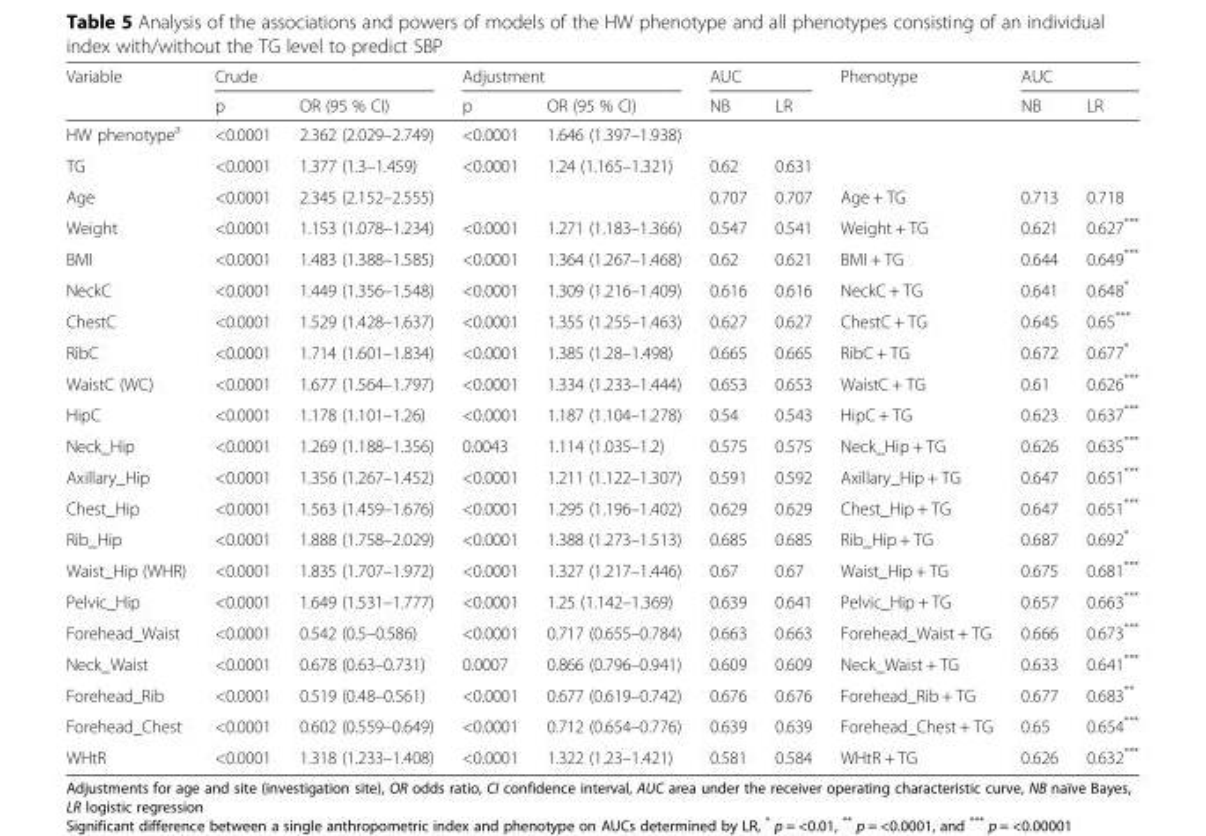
<table><thead><tr><td rowspan="2">Variable</td><td colspan="2">Crude</td><td colspan="2">Adjustment</td><td colspan="2">AUC</td><td rowspan="2">Phenotype</td><td colspan="2">AUC</td></tr><tr><td>p</td><td>OR (95 % CI)</td><td>p</td><td>OR (95 % CI)</td><td>NB</td><td>LR</td><td>NB</td><td>LR</td></tr></thead><tbody><tr><td>HW phenotype<sup>a</sup></td><td>&lt;0.0001</td><td>2.362 (2.029–2.749)</td><td>&lt;0.0001</td><td>1.646 (1.397–1.938)</td><td></td><td></td><td></td><td></td><td></td></tr><tr><td>TG</td><td>&lt;0.0001</td><td>1.377 (1.3–1.459)</td><td>&lt;0.0001</td><td>1.24 (1.165–1.321)</td><td>0.62</td><td>0.631</td><td></td><td></td><td></td></tr><tr><td>Age</td><td>&lt;0.0001</td><td>2.345 (2.152–2.555)</td><td></td><td></td><td>0.707</td><td>0.707</td><td>Age + TG</td><td>0.713</td><td>0.718</td></tr><tr><td>Weight</td><td>&lt;0.0001</td><td>1.153 (1.078–1.234)</td><td>&lt;0.0001</td><td>1.271 (1.183–1.366)</td><td>0.547</td><td>0.541</td><td>Weight + TG</td><td>0.621</td><td>0.627***</td></tr><tr><td>BMI</td><td>&lt;0.0001</td><td>1.483 (1.388–1.585)</td><td>&lt;0.0001</td><td>1.364 (1.267–1.468)</td><td>0.62</td><td>0.621</td><td>BMI + TG</td><td>0.644</td><td>0.649***</td></tr><tr><td>NeckC</td><td>&lt;0.0001</td><td>1.449 (1.356–1.548)</td><td>&lt;0.0001</td><td>1.309 (1.216–1.409)</td><td>0.616</td><td>0.616</td><td>NeckC + TG</td><td>0.641</td><td>0.648*</td></tr><tr><td>ChestC</td><td>&lt;0.0001</td><td>1.529 (1.428–1.637)</td><td>&lt;0.0001</td><td>1.355 (1.255–1.463)</td><td>0.627</td><td>0.627</td><td>ChestC + TG</td><td>0.645</td><td>0.65***</td></tr><tr><td>RibC</td><td>&lt;0.0001</td><td>1.714 (1.601–1.834)</td><td>&lt;0.0001</td><td>1.385 (1.28–1.498)</td><td>0.665</td><td>0.665</td><td>RibC + TG</td><td>0.672</td><td>0.677*</td></tr><tr><td>WaistC (WC)</td><td>&lt;0.0001</td><td>1.677 (1.564–1.797)</td><td>&lt;0.0001</td><td>1.334 (1.233–1.444)</td><td>0.653</td><td>0.653</td><td>WaistC + TG</td><td>0.61</td><td>0.626***</td></tr><tr><td>HipC</td><td>&lt;0.0001</td><td>1.178 (1.101–1.26)</td><td>&lt;0.0001</td><td>1.187 (1.104–1.278)</td><td>0.54</td><td>0.543</td><td>HipC + TG</td><td>0.623</td><td>0.637***</td></tr><tr><td>Neck_Hip</td><td>&lt;0.0001</td><td>1.269 (1.188–1.356)</td><td>0.0043</td><td>1.114 (1.035–1.2)</td><td>0.575</td><td>0.575</td><td>Neck_Hip + TG</td><td>0.626</td><td>0.635***</td></tr><tr><td>Axillary_Hip</td><td>&lt;0.0001</td><td>1.356 (1.267–1.452)</td><td>&lt;0.0001</td><td>1.211 (1.122–1.307)</td><td>0.591</td><td>0.592</td><td>Axillary_Hip + TG</td><td>0.647</td><td>0.651***</td></tr><tr><td>Chest_Hip</td><td>&lt;0.0001</td><td>1.563 (1.459–1.676)</td><td>&lt;0.0001</td><td>1.295 (1.196–1.402)</td><td>0.629</td><td>0.629</td><td>Chest_Hip + TG</td><td>0.647</td><td>0.651***</td></tr><tr><td>Rib_Hip</td><td>&lt;0.0001</td><td>1.888 (1.758–2.029)</td><td>&lt;0.0001</td><td>1.388 (1.273–1.513)</td><td>0.685</td><td>0.685</td><td>Rib_Hip + TG</td><td>0.687</td><td>0.692*</td></tr><tr><td>Waist_Hip (WHR)</td><td>&lt;0.0001</td><td>1.835 (1.707–1.972)</td><td>&lt;0.0001</td><td>1.327 (1.217–1.446)</td><td>0.67</td><td>0.67</td><td>Waist_Hip + TG</td><td>0.675</td><td>0.681***</td></tr><tr><td>Pelvic_Hip</td><td>&lt;0.0001</td><td>1.649 (1.531–1.777)</td><td>&lt;0.0001</td><td>1.25 (1.142–1.369)</td><td>0.639</td><td>0.641</td><td>Pelvic_Hip + TG</td><td>0.657</td><td>0.663***</td></tr><tr><td>Forehead_Waist</td><td>&lt;0.0001</td><td>0.542 (0.5–0.586)</td><td>&lt;0.0001</td><td>0.717 (0.655–0.784)</td><td>0.663</td><td>0.663</td><td>Forehead_Waist + TG</td><td>0.666</td><td>0.673***</td></tr><tr><td>Neck_Waist</td><td>&lt;0.0001</td><td>0.678 (0.63–0.731)</td><td>0.0007</td><td>0.866 (0.796–0.941)</td><td>0.609</td><td>0.609</td><td>Neck_Waist + TG</td><td>0.633</td><td>0.641***</td></tr><tr><td>Forehead_Rib</td><td>&lt;0.0001</td><td>0.519 (0.48–0.561)</td><td>&lt;0.0001</td><td>0.677 (0.619–0.742)</td><td>0.676</td><td>0.676</td><td>Forehead_Rib + TG</td><td>0.677</td><td>0.683**</td></tr><tr><td>Forehead_Chest</td><td>&lt;0.0001</td><td>0.602 (0.559–0.649)</td><td>&lt;0.0001</td><td>0.712 (0.654–0.776)</td><td>0.639</td><td>0.639</td><td>Forehead_Chest + TG</td><td>0.65</td><td>0.654***</td></tr><tr><td>WHtR</td><td>&lt;0.0001</td><td>1.318 (1.233–1.408)</td><td>&lt;0.0001</td><td>1.322 (1.23–1.421)</td><td>0.581</td><td>0.584</td><td>WHtR + TG</td><td>0.626</td><td>0.632***</td></tr></tbody></table>